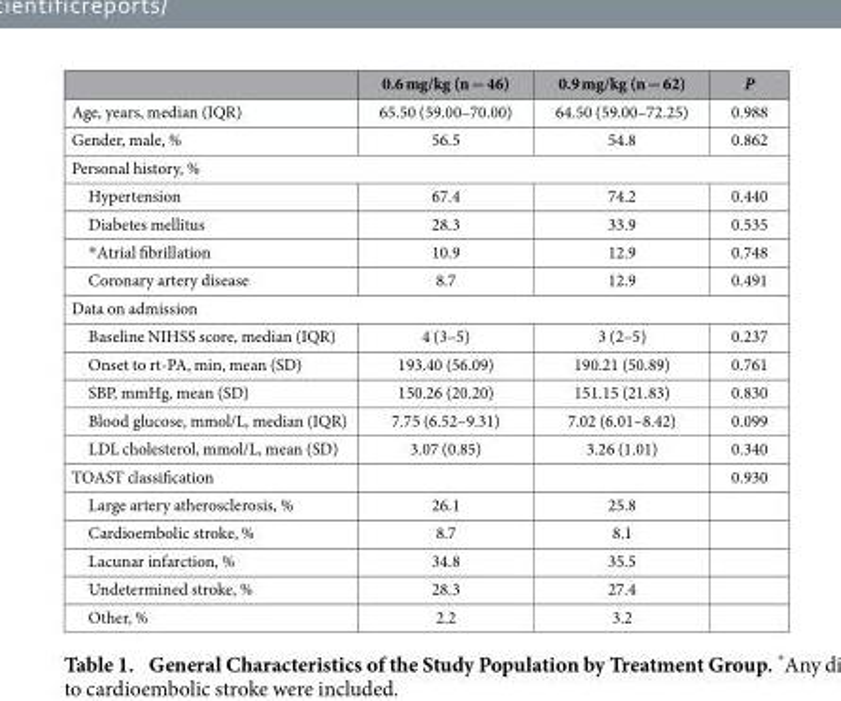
<table><thead><tr><td></td><td>0.6 mg/kg (n = 46)</td><td>0.9 mg/kg (n = 62)</td><td>P</td></tr></thead><tbody><tr><td>Age, years, median (IQR)</td><td>65.50 (59.00–70.00)</td><td>64.50 (59.00–72.25)</td><td>0.988</td></tr><tr><td>Gender, male, %</td><td>56.5</td><td>54.8</td><td>0.862</td></tr><tr><td colspan="4">Personal history, %</td></tr><tr><td>Hypertension</td><td>67.4</td><td>74.2</td><td>0.440</td></tr><tr><td>Diabetes mellitus</td><td>28.3</td><td>33.9</td><td>0.535</td></tr><tr><td>*Atrial fibrillation</td><td>10.9</td><td>12.9</td><td>0.748</td></tr><tr><td>Coronary artery disease</td><td>8.7</td><td>12.9</td><td>0.491</td></tr><tr><td colspan="4">Data on admission</td></tr><tr><td>Baseline NIHSS score, median (IQR)</td><td>4 (3–5)</td><td>3 (2–5)</td><td>0.237</td></tr><tr><td>Onset to rt-PA, min, mean (SD)</td><td>193.40 (56.09)</td><td>190.21 (50.89)</td><td>0.761</td></tr><tr><td>SBP, mmHg, mean (SD)</td><td>150.26 (20.20)</td><td>151.15 (21.83)</td><td>0.830</td></tr><tr><td>Blood glucose, mmol/L, median (IQR)</td><td>7.75 (6.52–9.31)</td><td>7.02 (6.01–8.42)</td><td>0.099</td></tr><tr><td>LDL cholesterol, mmol/L, mean (SD)</td><td>3.07 (0.85)</td><td>3.26 (1.01)</td><td>0.340</td></tr><tr><td>TOAST classification</td><td></td><td></td><td>0.930</td></tr><tr><td>Large artery atherosclerosis, %</td><td>26.1</td><td>25.8</td><td></td></tr><tr><td>Cardioembolic stroke, %</td><td>8.7</td><td>8.1</td><td></td></tr><tr><td>Lacunar infarction, %</td><td>34.8</td><td>35.5</td><td></td></tr><tr><td>Undetermined stroke, %</td><td>28.3</td><td>27.4</td><td></td></tr><tr><td>Other, %</td><td>2.2</td><td>3.2</td><td></td></tr></tbody></table>